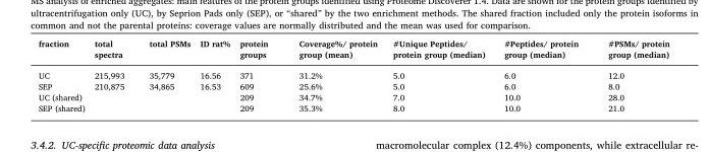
<table><thead><tr><td>fraction</td><td>total spectra</td><td>total PSMs</td><td>ID rat%</td><td>protein groups</td><td>Coverage%/ protein group (mean)</td><td>#Unique Peptides/ protein group (median)</td><td>#Peptides/ protein group (median)</td><td>#PSMs/ protein group (median)</td></tr></thead><tbody><tr><td>UC</td><td>215,993</td><td>35,779</td><td>16.56</td><td>371</td><td>31.2%</td><td>5.0</td><td>6.0</td><td>12.0</td></tr><tr><td>SEP</td><td>210,875</td><td>34,865</td><td>16.53</td><td>609</td><td>25.6%</td><td>5.0</td><td>6.0</td><td>8.0</td></tr><tr><td>UC (shared)</td><td></td><td></td><td></td><td>209</td><td>34.7%</td><td>7.0</td><td>10.0</td><td>28.0</td></tr><tr><td>SEP (shared)</td><td></td><td></td><td></td><td>209</td><td>35.3%</td><td>8.0</td><td>10.0</td><td>21.0</td></tr></tbody></table>